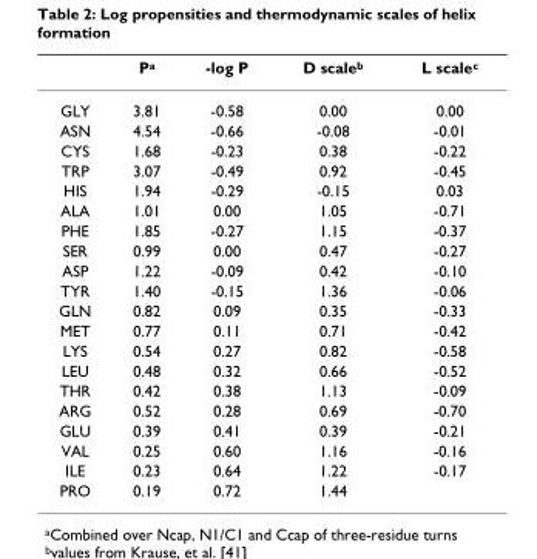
<table><thead><tr><td></td><td>P<sup>a</sup></td><td>-log P</td><td>D scale<sup>b</sup></td><td>L scale<sup>c</sup></td></tr></thead><tbody><tr><td>GLY</td><td>3.81</td><td>-0.58</td><td>0.00</td><td>0.00</td></tr><tr><td>ASN</td><td>4.54</td><td>-0.66</td><td>-0.08</td><td>-0.01</td></tr><tr><td>CYS</td><td>1.68</td><td>-0.23</td><td>0.38</td><td>-0.22</td></tr><tr><td>TRP</td><td>3.07</td><td>-0.49</td><td>0.92</td><td>-0.45</td></tr><tr><td>HIS</td><td>1.94</td><td>-0.29</td><td>-0.15</td><td>0.03</td></tr><tr><td>ALA</td><td>1.01</td><td>0.00</td><td>1.05</td><td>-0.71</td></tr><tr><td>PHE</td><td>1.85</td><td>-0.27</td><td>1.15</td><td>-0.37</td></tr><tr><td>SER</td><td>0.99</td><td>0.00</td><td>0.47</td><td>-0.27</td></tr><tr><td>ASP</td><td>1.22</td><td>-0.09</td><td>0.42</td><td>-0.10</td></tr><tr><td>TYR</td><td>1.40</td><td>-0.15</td><td>1.36</td><td>-0.06</td></tr><tr><td>GLN</td><td>0.82</td><td>0.09</td><td>0.35</td><td>-0.33</td></tr><tr><td>MET</td><td>0.77</td><td>0.11</td><td>0.71</td><td>-0.42</td></tr><tr><td>LYS</td><td>0.54</td><td>0.27</td><td>0.82</td><td>-0.58</td></tr><tr><td>LEU</td><td>0.48</td><td>0.32</td><td>0.66</td><td>-0.52</td></tr><tr><td>THR</td><td>0.42</td><td>0.38</td><td>1.13</td><td>-0.09</td></tr><tr><td>ARG</td><td>0.52</td><td>0.28</td><td>0.69</td><td>-0.70</td></tr><tr><td>GLU</td><td>0.39</td><td>0.41</td><td>0.39</td><td>-0.21</td></tr><tr><td>VAL</td><td>0.25</td><td>0.60</td><td>1.16</td><td>-0.16</td></tr><tr><td>ILE</td><td>0.23</td><td>0.64</td><td>1.22</td><td>-0.17</td></tr><tr><td>PRO</td><td>0.19</td><td>0.72</td><td>1.44</td><td></td></tr></tbody></table>